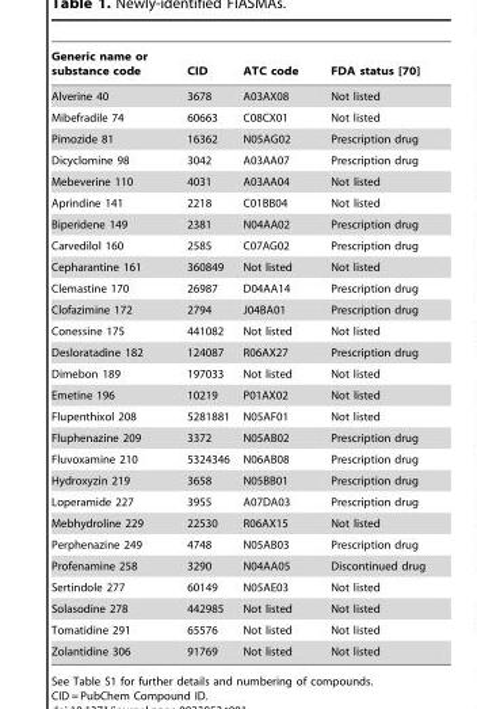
<table><thead><tr><td>Generic name or substance code</td><td>CID</td><td>ATC code</td><td>FDA status [70]</td></tr></thead><tbody><tr><td>Alverine 40</td><td>3678</td><td>A03AX08</td><td>Not listed</td></tr><tr><td>Mibefradile 74</td><td>60663</td><td>C08CX01</td><td>Not listed</td></tr><tr><td>Pimozide 81</td><td>16362</td><td>N05AG02</td><td>Prescription drug</td></tr><tr><td>Dicyclomine 98</td><td>3042</td><td>A03AA07</td><td>Prescription drug</td></tr><tr><td>Mebeverine 110</td><td>4031</td><td>A03AA04</td><td>Not listed</td></tr><tr><td>Aprindine 141</td><td>2218</td><td>C01BB04</td><td>Not listed</td></tr><tr><td>Biperidene 149</td><td>2381</td><td>N04AA02</td><td>Prescription drug</td></tr><tr><td>Carvedilol 160</td><td>2585</td><td>C07AG02</td><td>Prescription drug</td></tr><tr><td>Cepharantine 161</td><td>360849</td><td>Not listed</td><td>Not listed</td></tr><tr><td>Clemastine 170</td><td>26987</td><td>D04AA14</td><td>Prescription drug</td></tr><tr><td>Clofazimine 172</td><td>2794</td><td>J04BA01</td><td>Prescription drug</td></tr><tr><td>Conessine 175</td><td>441082</td><td>Not listed</td><td>Not listed</td></tr><tr><td>Desloratadine 182</td><td>124087</td><td>R06AX27</td><td>Prescription drug</td></tr><tr><td>Dimebon 189</td><td>197033</td><td>Not listed</td><td>Not listed</td></tr><tr><td>Emetine 196</td><td>10219</td><td>P01AX02</td><td>Not listed</td></tr><tr><td>Flupenthixol 208</td><td>5281881</td><td>N05AF01</td><td>Not listed</td></tr><tr><td>Fluphenazine 209</td><td>3372</td><td>N05AB02</td><td>Prescription drug</td></tr><tr><td>Fluvoxamine 210</td><td>5324346</td><td>N06AB08</td><td>Prescription drug</td></tr><tr><td>Hydroxyzin 219</td><td>3658</td><td>N05BB01</td><td>Prescription drug</td></tr><tr><td>Loperamide 227</td><td>3955</td><td>A07DA03</td><td>Prescription drug</td></tr><tr><td>Mebhydroline 229</td><td>22530</td><td>R06AX15</td><td>Not listed</td></tr><tr><td>Perphenazine 249</td><td>4748</td><td>N05AB03</td><td>Prescription drug</td></tr><tr><td>Profenamine 258</td><td>3290</td><td>N04AA05</td><td>Discontinued drug</td></tr><tr><td>Sertindole 277</td><td>60149</td><td>N05AE03</td><td>Not listed</td></tr><tr><td>Solasodine 278</td><td>442985</td><td>Not listed</td><td>Not listed</td></tr><tr><td>Tomatidine 291</td><td>65576</td><td>Not listed</td><td>Not listed</td></tr><tr><td>Zolantidine 306</td><td>91769</td><td>Not listed</td><td>Not listed</td></tr></tbody></table>